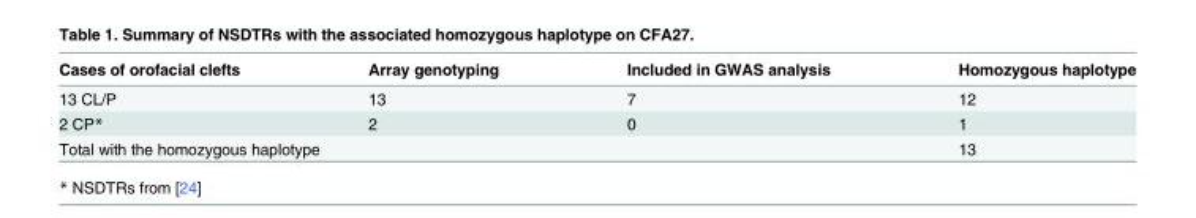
<table><thead><tr><td>Cases of orofacial clefts</td><td>Array genotyping</td><td>Included in GWAS analysis</td><td>Homozygous haplotype</td></tr></thead><tbody><tr><td>13 CL/P</td><td>13</td><td>7</td><td>12</td></tr><tr><td>2 CP*</td><td>2</td><td>0</td><td>1</td></tr><tr><td colspan="3">Total with the homozygous haplotype</td><td>13</td></tr></tbody></table>